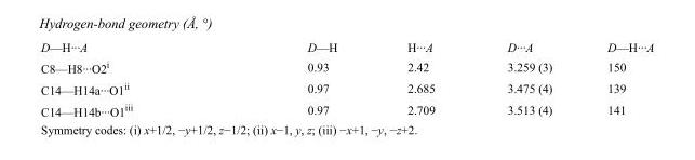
<table><tbody><tr><td>D—H···A</td><td>D—H</td><td>H···A</td><td>D···A</td><td>D—H···A</td></tr><tr><td>C8—H8···O2<sup>i</sup></td><td>0.93</td><td>2.42</td><td>3.259 (3)</td><td>150</td></tr><tr><td>C14—H14a···O1<sup>ii</sup></td><td>0.97</td><td>2.685</td><td>3.475 (4)</td><td>139</td></tr><tr><td>C14—H14b···O1<sup>iii</sup></td><td>0.97</td><td>2.709</td><td>3.513 (4)</td><td>141</td></tr></tbody></table>